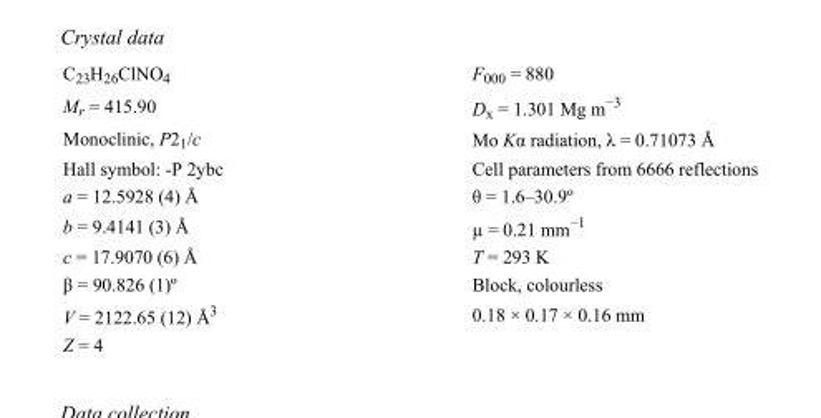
<table><tbody><tr><td>C<sub>23</sub>H<sub>26</sub>ClNO<sub>4</sub></td><td>F000 = 880</td></tr><tr><td>M<sub>r</sub> = 415.90</td><td>D<sub>x</sub> = 1.301 Mg m<sup>−3</sup></td></tr><tr><td>Monoclinic, P2<sub>1</sub>/c</td><td>Mo Kα radiation, λ = 0.71073 Å</td></tr><tr><td>Hall symbol: -P 2ybc</td><td>Cell parameters from 6666 reflections</td></tr><tr><td>a = 12.5928 (4) Å</td><td>θ = 1.6–30.9º</td></tr><tr><td>b = 9.4141 (3) Å</td><td>µ = 0.21 mm<sup>−1</sup></td></tr><tr><td>c = 17.9070 (6) Å</td><td>T = 293 K</td></tr><tr><td>β = 90.826 (1)º</td><td>Block, colourless</td></tr><tr><td>V = 2122.65 (12) Å<sup>3</sup></td><td>0.18 × 0.17 × 0.16 mm</td></tr><tr><td>Z = 4</td><td></td></tr></tbody></table>